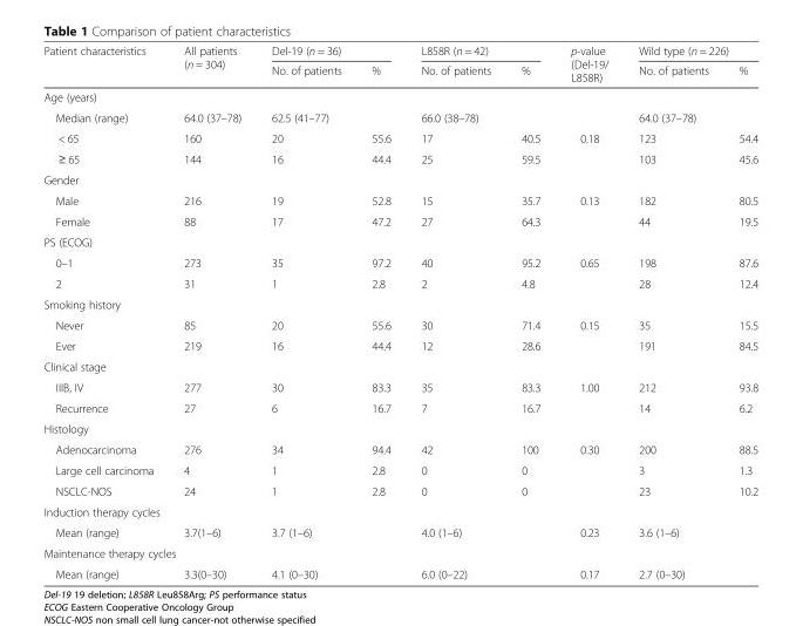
<table><thead><tr><td rowspan="2">Patient characteristics</td><td rowspan="2">All patients (n = 304)</td><td colspan="2">Del-19 (n = 36)</td><td colspan="2">L858R (n = 42)</td><td rowspan="2">p-value (Del-19/ L858R)</td><td colspan="2">Wild type (n = 226)</td></tr><tr><td>No. of patients</td><td>%</td><td>No. of patients</td><td>%</td><td>No. of patients</td><td>%</td></tr></thead><tbody><tr><td colspan="9">Age (years)</td></tr><tr><td>Median (range)</td><td>64.0 (37–78)</td><td colspan="2">62.5 (41–77)</td><td colspan="2">66.0 (38–78)</td><td></td><td colspan="2">64.0 (37–78)</td></tr><tr><td>&lt; 65</td><td>160</td><td>20</td><td>55.6</td><td>17</td><td>40.5</td><td>0.18</td><td>123</td><td>54.4</td></tr><tr><td>≥ 65</td><td>144</td><td>16</td><td>44.4</td><td>25</td><td>59.5</td><td></td><td>103</td><td>45.6</td></tr><tr><td colspan="9">Gender</td></tr><tr><td>Male</td><td>216</td><td>19</td><td>52.8</td><td>15</td><td>35.7</td><td>0.13</td><td>182</td><td>80.5</td></tr><tr><td>Female</td><td>88</td><td>17</td><td>47.2</td><td>27</td><td>64.3</td><td></td><td>44</td><td>19.5</td></tr><tr><td colspan="9">PS (ECOG)</td></tr><tr><td>0–1</td><td>273</td><td>35</td><td>97.2</td><td>40</td><td>95.2</td><td>0.65</td><td>198</td><td>87.6</td></tr><tr><td>2</td><td>31</td><td>1</td><td>2.8</td><td>2</td><td>4.8</td><td></td><td>28</td><td>12.4</td></tr><tr><td colspan="9">Smoking history</td></tr><tr><td>Never</td><td>85</td><td>20</td><td>55.6</td><td>30</td><td>71.4</td><td>0.15</td><td>35</td><td>15.5</td></tr><tr><td>Ever</td><td>219</td><td>16</td><td>44.4</td><td>12</td><td>28.6</td><td></td><td>191</td><td>84.5</td></tr><tr><td colspan="9">Clinical stage</td></tr><tr><td>IIIB, IV</td><td>277</td><td>30</td><td>83.3</td><td>35</td><td>83.3</td><td>1.00</td><td>212</td><td>93.8</td></tr><tr><td>Recurrence</td><td>27</td><td>6</td><td>16.7</td><td>7</td><td>16.7</td><td></td><td>14</td><td>6.2</td></tr><tr><td colspan="9">Histology</td></tr><tr><td>Adenocarcinoma</td><td>276</td><td>34</td><td>94.4</td><td>42</td><td>100</td><td>0.30</td><td>200</td><td>88.5</td></tr><tr><td>Large cell carcinoma</td><td>4</td><td>1</td><td>2.8</td><td>0</td><td>0</td><td></td><td>3</td><td>1.3</td></tr><tr><td>NSCLC-NOS</td><td>24</td><td>1</td><td>2.8</td><td>0</td><td>0</td><td></td><td>23</td><td>10.2</td></tr><tr><td colspan="9">Induction therapy cycles</td></tr><tr><td>Mean (range)</td><td>3.7(1–6)</td><td colspan="2">3.7 (1–6)</td><td colspan="2">4.0 (1–6)</td><td>0.23</td><td colspan="2">3.6 (1–6)</td></tr><tr><td colspan="9">Maintenance therapy cycles</td></tr><tr><td>Mean (range)</td><td>3.3(0–30)</td><td colspan="2">4.1 (0–30)</td><td colspan="2">6.0 (0–22)</td><td>0.17</td><td colspan="2">2.7 (0–30)</td></tr></tbody></table>